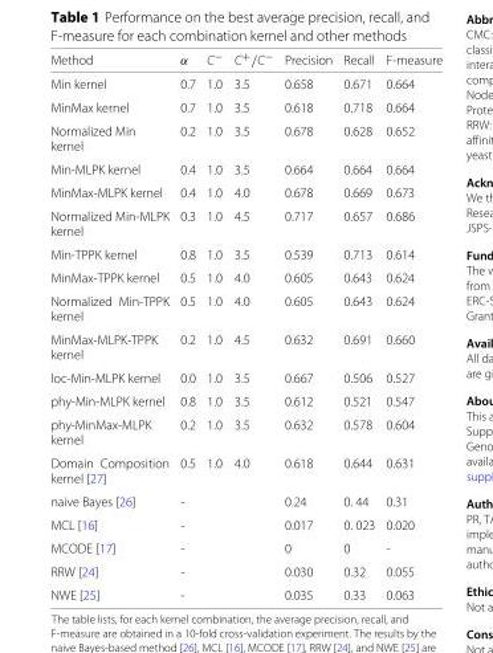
<table><thead><tr><td>Method</td><td>α</td><td>C<sup>−</sup></td><td>C<sup>+</sup>/C<sup>−</sup></td><td>Precision</td><td>Recall</td><td>F-measure</td></tr></thead><tbody><tr><td>Min kernel</td><td>0.7</td><td>1.0</td><td>3.5</td><td>0.658</td><td>0.671</td><td>0.664</td></tr><tr><td>MinMax kernel</td><td>0.7</td><td>1.0</td><td>3.5</td><td>0.618</td><td>0.718</td><td>0.664</td></tr><tr><td>Normalized Min kernel</td><td>0.2</td><td>1.0</td><td>3.5</td><td>0.678</td><td>0.628</td><td>0.652</td></tr><tr><td>Min-MLPK kernel</td><td>0.4</td><td>1.0</td><td>3.5</td><td>0.664</td><td>0.664</td><td>0.664</td></tr><tr><td>MinMax-MLPK kernel</td><td>0.4</td><td>1.0</td><td>4.0</td><td>0.678</td><td>0.669</td><td>0.673</td></tr><tr><td>Normalized Min-MLPK kernel</td><td>0.3</td><td>1.0</td><td>4.5</td><td>0.717</td><td>0.657</td><td>0.686</td></tr><tr><td>Min-TPPK kernel</td><td>0.8</td><td>1.0</td><td>3.5</td><td>0.539</td><td>0.713</td><td>0.614</td></tr><tr><td>MinMax-TPPK kernel</td><td>0.5</td><td>1.0</td><td>4.0</td><td>0.605</td><td>0.643</td><td>0.624</td></tr><tr><td>Normalized Min-TPPK kernel</td><td>0.5</td><td>1.0</td><td>4.0</td><td>0.605</td><td>0.643</td><td>0.624</td></tr><tr><td>MinMax-MLPK-TPPK kernel</td><td>0.2</td><td>1.0</td><td>4.5</td><td>0.632</td><td>0.691</td><td>0.660</td></tr><tr><td>loc-Min-MLPK kernel</td><td>0.0</td><td>1.0</td><td>3.5</td><td>0.667</td><td>0.506</td><td>0.527</td></tr><tr><td>phy-Min-MLPK kernel</td><td>0.8</td><td>1.0</td><td>3.5</td><td>0.612</td><td>0.521</td><td>0.547</td></tr><tr><td>phy-MinMax-MLPK kernel</td><td>0.2</td><td>1.0</td><td>3.5</td><td>0.632</td><td>0.578</td><td>0.604</td></tr><tr><td>Domain Composition kernel [27]</td><td>0.5</td><td>1.0</td><td>4.0</td><td>0.618</td><td>0.644</td><td>0.631</td></tr><tr><td>naive Bayes [26]</td><td>-</td><td></td><td></td><td>0.24</td><td>0. 44</td><td>0.31</td></tr><tr><td>MCL [16]</td><td>-</td><td></td><td></td><td>0.017</td><td>0. 023</td><td>0.020</td></tr><tr><td>MCODE [17]</td><td>-</td><td></td><td></td><td>0</td><td>0</td><td>-</td></tr><tr><td>RRW [24]</td><td>-</td><td></td><td></td><td>0.030</td><td>0.32</td><td>0.055</td></tr><tr><td>NWE [25]</td><td>-</td><td></td><td></td><td>0.035</td><td>0.33</td><td>0.063</td></tr></tbody></table>